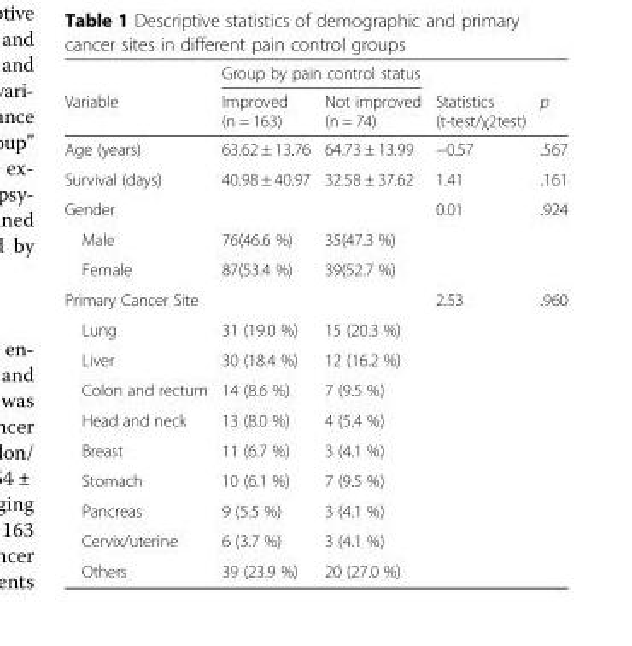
<table><thead><tr><td rowspan="2">Variable</td><td colspan="2">Group by pain control status</td><td rowspan="2">Statistics (t-test/χ2test)</td><td rowspan="2">p</td></tr><tr><td>Improved (n = 163)</td><td>Not improved (n = 74)</td></tr></thead><tbody><tr><td>Age (years)</td><td>63.62 ± 13.76</td><td>64.73 ± 13.99</td><td>−0.57</td><td>.567</td></tr><tr><td>Survival (days)</td><td>40.98 ± 40.97</td><td>32.58 ± 37.62</td><td>1.41</td><td>.161</td></tr><tr><td>Gender</td><td></td><td></td><td>0.01</td><td>.924</td></tr><tr><td>Male</td><td>76(46.6 %)</td><td>35(47.3 %)</td><td></td><td></td></tr><tr><td>Female</td><td>87(53.4 %)</td><td>39(52.7 %)</td><td></td><td></td></tr><tr><td>Primary Cancer Site</td><td></td><td></td><td>2.53</td><td>.960</td></tr><tr><td>Lung</td><td>31 (19.0 %)</td><td>15 (20.3 %)</td><td></td><td></td></tr><tr><td>Liver</td><td>30 (18.4 %)</td><td>12 (16.2 %)</td><td></td><td></td></tr><tr><td>Colon and rectum</td><td>14 (8.6 %)</td><td>7 (9.5 %)</td><td></td><td></td></tr><tr><td>Head and neck</td><td>13 (8.0 %)</td><td>4 (5.4 %)</td><td></td><td></td></tr><tr><td>Breast</td><td>11 (6.7 %)</td><td>3 (4.1 %)</td><td></td><td></td></tr><tr><td>Stomach</td><td>10 (6.1 %)</td><td>7 (9.5 %)</td><td></td><td></td></tr><tr><td>Pancreas</td><td>9 (5.5 %)</td><td>3 (4.1 %)</td><td></td><td></td></tr><tr><td>Cervix/uterine</td><td>6 (3.7 %)</td><td>3 (4.1 %)</td><td></td><td></td></tr><tr><td>Others</td><td>39 (23.9 %)</td><td>20 (27.0 %)</td><td></td><td></td></tr></tbody></table>